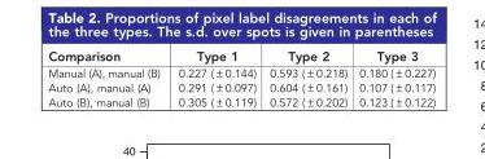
<table><thead><tr><td>Comparison</td><td>Type 1</td><td>Type 2</td><td>Type 3</td></tr></thead><tbody><tr><td>Manual (A), manual (B)</td><td>0.227 (±0.144)</td><td>0.593 (±0.218)</td><td>0.180 (±0.227)</td></tr><tr><td>Auto (A), manual (A)</td><td>0.291 (±0.097)</td><td>0.604 (±0.161)</td><td>0.107 (±0.117)</td></tr><tr><td>Auto (B), manual (B)</td><td>0.305 (±0.119)</td><td>0.572 (±0.202)</td><td>0.123 (±0.122)</td></tr></tbody></table>